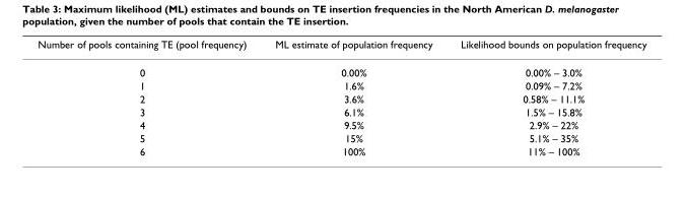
<table><thead><tr><td>Number of pools containing TE (pool frequency)</td><td>ML estimate of population frequency</td><td>Likelihood bounds on population frequency</td></tr></thead><tbody><tr><td>0</td><td>0.00%</td><td>0.00% – 3.0%</td></tr><tr><td>1</td><td>1.6%</td><td>0.09% – 7.2%</td></tr><tr><td>2</td><td>3.6%</td><td>0.58% – 11.1%</td></tr><tr><td>3</td><td>6.1%</td><td>1.5% – 15.8%</td></tr><tr><td>4</td><td>9.5%</td><td>2.9% – 22%</td></tr><tr><td>5</td><td>15%</td><td>5.1% – 35%</td></tr><tr><td>6</td><td>100%</td><td>11% – 100%</td></tr></tbody></table>